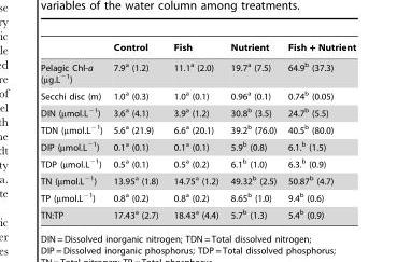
<table><thead><tr><td></td><td>Control</td><td>Fish</td><td>Nutrient</td><td>Fish + Nutrient</td></tr></thead><tbody><tr><td>Pelagic Chl-a (µg.L<sup>−1</sup>)</td><td>7.9<sup>a</sup> (1.2)</td><td>11.1<sup>a</sup> (2.0)</td><td>19.7<sup>a</sup> (7.5)</td><td>64.9<sup>b</sup> (37.3)</td></tr><tr><td>Secchi disc (m)</td><td>1.0<sup>a</sup> (0.3)</td><td>1.0<sup>a</sup> (0.1)</td><td>0.96<sup>a</sup> (0.1)</td><td>0.74<sup>b</sup> (0.05)</td></tr><tr><td>DIN (µmol.L<sup>−1</sup>)</td><td>3.6<sup>a</sup> (4.1)</td><td>3.9<sup>a</sup> (1.2)</td><td>30.8<sup>b</sup> (3.5)</td><td>24.7<sup>b</sup> (5.5)</td></tr><tr><td>TDN (µmol.L<sup>−1</sup>)</td><td>5.6<sup>a</sup> (21.9)</td><td>6.6<sup>a</sup> (20.1)</td><td>39.2<sup>b</sup> (76.0)</td><td>40.5<sup>b</sup> (80.0)</td></tr><tr><td>DIP (µmol.L<sup>−1</sup>)</td><td>0.1<sup>a</sup> (0.1)</td><td>0.1<sup>a</sup> (0.1)</td><td>5.9<sup>b</sup> (0.8)</td><td>6.1.<sup>b</sup> (1.5)</td></tr><tr><td>TDP (µmol.L<sup>−1</sup>)</td><td>0.5<sup>a</sup> (0.1)</td><td>0.5<sup>a</sup> (0.2)</td><td>6.1<sup>b</sup> (1.0)</td><td>6.3.<sup>b</sup> (0.9)</td></tr><tr><td>TN (µmol.L<sup>−1</sup>)</td><td>13.95<sup>a</sup> (1.8)</td><td>14.75<sup>a</sup> (1.2)</td><td>49.32<sup>b</sup> (2.5)</td><td>50.87<sup>b</sup> (4.7)</td></tr><tr><td>TP (µmol.L<sup>−1</sup>)</td><td>0.8<sup>a</sup> (0.2)</td><td>0.8<sup>a</sup> (0.2)</td><td>8.65<sup>b</sup> (1.0)</td><td>9.4<sup>b</sup> (0.6)</td></tr><tr><td>TN:TP</td><td>17.43<sup>a</sup> (2.7)</td><td>18.43<sup>a</sup> (4.4)</td><td>5.7<sup>b</sup> (1.3)</td><td>5.4<sup>b</sup> (0.9)</td></tr></tbody></table>